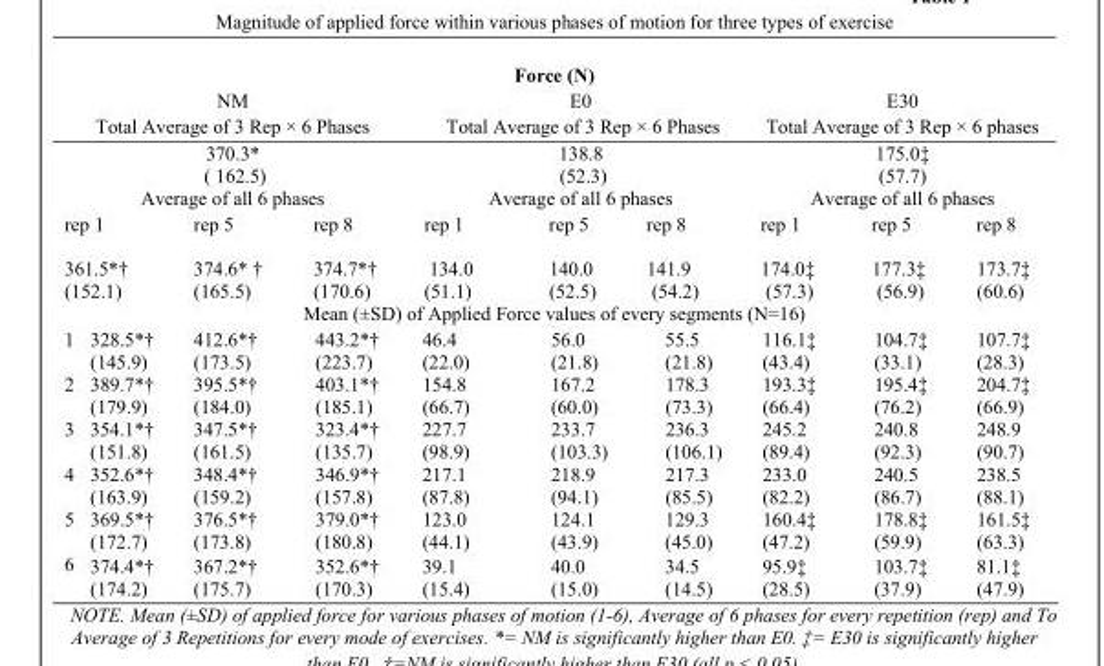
<table><thead><tr><td colspan="10">Force (N)</td></tr><tr><td rowspan="2" colspan="4">NM Total Average of 3 Rep × 6 Phases</td><td rowspan="2" colspan="3">E0 Total Average of 3 Rep × 6 Phases</td><td rowspan="2" colspan="3">E30 Total Average of 3 Rep × 6 phases</td></tr><tr></tr></thead><tbody><tr><td colspan="4">370.3* ( 162.5)</td><td colspan="3">138.8 (52.3)</td><td colspan="3">175.0‡ (57.7)</td></tr><tr><td colspan="4">Average of all 6 phases</td><td colspan="3">Average of all 6 phases</td><td colspan="3">Average of all 6 phases</td></tr><tr><td colspan="2">rep 1</td><td>rep 5</td><td>rep 8</td><td>rep 1</td><td>rep 5</td><td>rep 8</td><td>rep 1</td><td>rep 5</td><td>rep 8</td></tr><tr><td colspan="2">361.5*† (152.1)</td><td>374.6* † (165.5)</td><td>374.7*† (170.6)</td><td>134.0 (51.1)</td><td>140.0 (52.5)</td><td>141.9 (54.2)</td><td>174.0‡ (57.3)</td><td>177.3‡ (56.9)</td><td>173.7‡ (60.6)</td></tr><tr><td colspan="10">Mean (±SD) of Applied Force values of every segments (N=16)</td></tr><tr><td>1</td><td>328.5*† (145.9)</td><td>412.6*† (173.5)</td><td>443.2*† (223.7)</td><td>46.4 (22.0)</td><td>56.0 (21.8)</td><td>55.5 (21.8)</td><td>116.1‡ (43.4)</td><td>104.7‡ (33.1)</td><td>107.7‡ (28.3)</td></tr><tr><td>2</td><td>389.7*† (179.9)</td><td>395.5*† (184.0)</td><td>403.1*† (185.1)</td><td>154.8 (66.7)</td><td>167.2 (60.0)</td><td>178.3 (73.3)</td><td>193.3‡ (66.4)</td><td>195.4‡ (76.2)</td><td>204.7‡ (66.9)</td></tr><tr><td>3</td><td>354.1*† (151.8)</td><td>347.5*† (161.5)</td><td>323.4*† (135.7)</td><td>227.7 (98.9)</td><td>233.7 (103.3)</td><td>236.3 (106.1)</td><td>245.2 (89.4)</td><td>240.8 (92.3)</td><td>248.9 (90.7)</td></tr><tr><td>4</td><td>352.6*† (163.9)</td><td>348.4*† (159.2)</td><td>346.9*† (157.8)</td><td>217.1 (87.8)</td><td>218.9 (94.1)</td><td>217.3 (85.5)</td><td>233.0 (82.2)</td><td>240.5 (86.7)</td><td>238.5 (88.1)</td></tr><tr><td>5</td><td>369.5*† (172.7)</td><td>376.5*† (173.8)</td><td>379.0*† (180.8)</td><td>123.0 (44.1)</td><td>124.1 (43.9)</td><td>129.3 (45.0)</td><td>160.4‡ (47.2)</td><td>178.8‡ (59.9)</td><td>161.5‡ (63.3)</td></tr><tr><td>6</td><td>374.4*† (174.2)</td><td>367.2*† (175.7)</td><td>352.6*† (170.3)</td><td>39.1 (15.4)</td><td>40.0 (15.0)</td><td>34.5 (14.5)</td><td>95.9‡ (28.5)</td><td>103.7‡ (37.9)</td><td>81.1‡ (47.9)</td></tr></tbody></table>